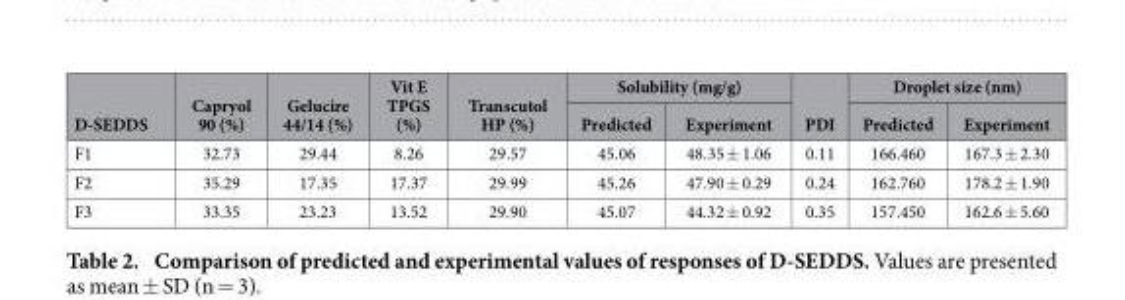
<table><thead><tr><td rowspan="2">D-SEDDS</td><td rowspan="2">Capryol 90 (%)</td><td rowspan="2">Gelucire 44/14 (%)</td><td rowspan="2">Vit E TPGS (%)</td><td rowspan="2">Transcutol HP (%)</td><td colspan="2">Solubility (mg/g)</td><td rowspan="2">PDI</td><td colspan="2">Droplet size (nm)</td></tr><tr><td>Predicted</td><td>Experiment</td><td>Predicted</td><td>Experiment</td></tr></thead><tbody><tr><td>F1</td><td>32.73</td><td>29.44</td><td>8.26</td><td>29.57</td><td>45.06</td><td>48.35 ± 1.06</td><td>0.11</td><td>166.460</td><td>167.3 ± 2.30</td></tr><tr><td>F2</td><td>35.29</td><td>17.35</td><td>17.37</td><td>29.99</td><td>45.26</td><td>47.90 ± 0.29</td><td>0.24</td><td>162.760</td><td>178.2 ± 1.90</td></tr><tr><td>F3</td><td>33.35</td><td>23.23</td><td>13.52</td><td>29.90</td><td>45.07</td><td>44.32 ± 0.92</td><td>0.35</td><td>157.450</td><td>162.6 ± 5.60</td></tr></tbody></table>